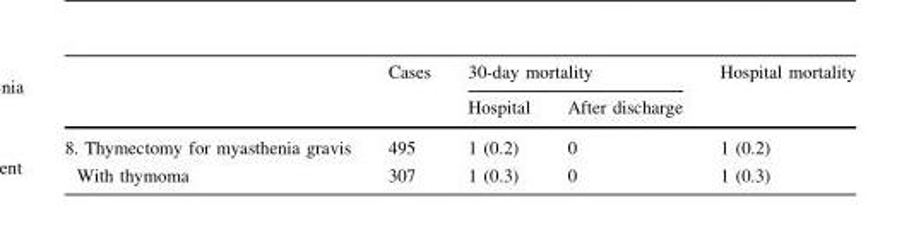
<table><thead><tr><td rowspan="2"></td><td rowspan="2">Cases</td><td colspan="2">30-day mortality</td><td rowspan="2">Hospital mortality</td></tr><tr><td>Hospital</td><td>After discharge</td></tr></thead><tbody><tr><td>8. Thymectomy for myasthenia gravis</td><td>495</td><td>1 (0.2)</td><td>0</td><td>1 (0.2)</td></tr><tr><td>With thymoma</td><td>307</td><td>1 (0.3)</td><td>0</td><td>1 (0.3)</td></tr></tbody></table>